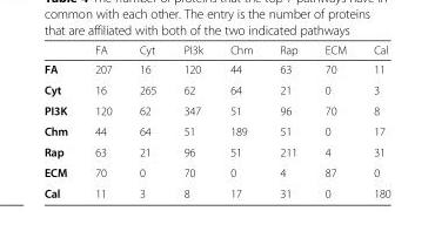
<table><thead><tr><td></td><td>FA</td><td>Cyt</td><td>PI3k</td><td>Chm</td><td>Rap</td><td>ECM</td><td>Cal</td></tr></thead><tbody><tr><td>FA</td><td>207</td><td>16</td><td>120</td><td>44</td><td>63</td><td>70</td><td>11</td></tr><tr><td>Cyt</td><td>16</td><td>265</td><td>62</td><td>64</td><td>21</td><td>0</td><td>3</td></tr><tr><td>PI3K</td><td>120</td><td>62</td><td>347</td><td>51</td><td>96</td><td>70</td><td>8</td></tr><tr><td>Chm</td><td>44</td><td>64</td><td>51</td><td>189</td><td>51</td><td>0</td><td>17</td></tr><tr><td>Rap</td><td>63</td><td>21</td><td>96</td><td>51</td><td>211</td><td>4</td><td>31</td></tr><tr><td>ECM</td><td>70</td><td>0</td><td>70</td><td>0</td><td>4</td><td>87</td><td>0</td></tr><tr><td>Cal</td><td>11</td><td>3</td><td>8</td><td>17</td><td>31</td><td>0</td><td>180</td></tr></tbody></table>